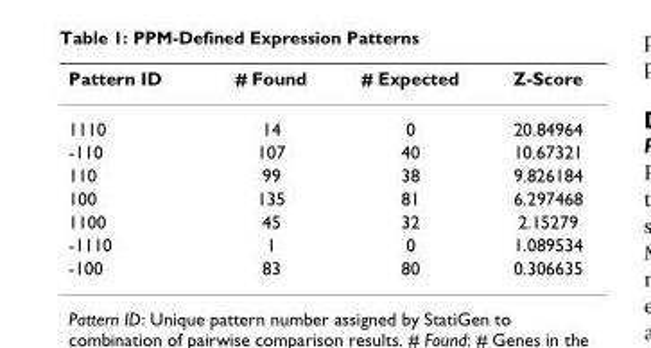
<table><thead><tr><td>Pattern ID</td><td># Found</td><td># Expected</td><td>Z-Score</td></tr></thead><tbody><tr><td>1110</td><td>14</td><td>0</td><td>20.84964</td></tr><tr><td>-110</td><td>107</td><td>40</td><td>10.67321</td></tr><tr><td>110</td><td>99</td><td>38</td><td>9.826184</td></tr><tr><td>100</td><td>135</td><td>81</td><td>6.297468</td></tr><tr><td>1100</td><td>45</td><td>32</td><td>2.15279</td></tr><tr><td>-1110</td><td>1</td><td>0</td><td>1.089534</td></tr><tr><td>-100</td><td>83</td><td>80</td><td>0.306635</td></tr></tbody></table>